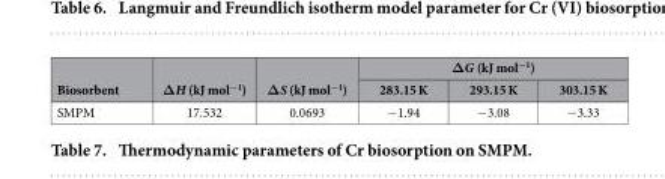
<table><thead><tr><td rowspan="2">Biosorbent</td><td rowspan="2">ΔH (kJ mol<sup>−1</sup>)</td><td rowspan="2">ΔS (kJ mol<sup>−1</sup>)</td><td colspan="3">ΔG (kJ mol<sup>−1</sup>)</td></tr><tr><td>283.15 K</td><td>293.15 K</td><td>303.15 K</td></tr></thead><tbody><tr><td>SMPM</td><td>17.532</td><td>0.0693</td><td>− 1.94</td><td>− 3.08</td><td>− 3.33</td></tr></tbody></table>